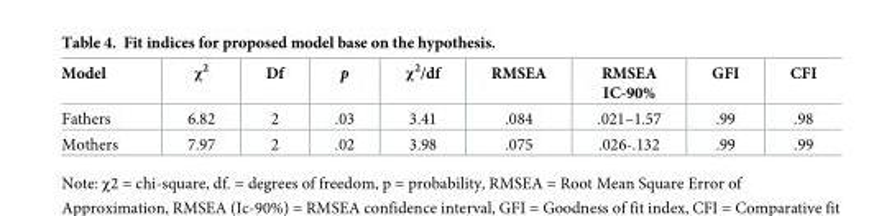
<table><thead><tr><td>Model</td><td>χ<sup>2</sup></td><td>Df</td><td>p</td><td>χ<sup>2</sup>/df</td><td>RMSEA</td><td>RMSEA IC-90%</td><td>GFI</td><td>CFI</td></tr></thead><tbody><tr><td>Fathers</td><td>6.82</td><td>2</td><td>.03</td><td>3.41</td><td>.084</td><td>.021–1.57</td><td>.99</td><td>.98</td></tr><tr><td>Mothers</td><td>7.97</td><td>2</td><td>.02</td><td>3.98</td><td>.075</td><td>.026-.132</td><td>.99</td><td>.99</td></tr></tbody></table>